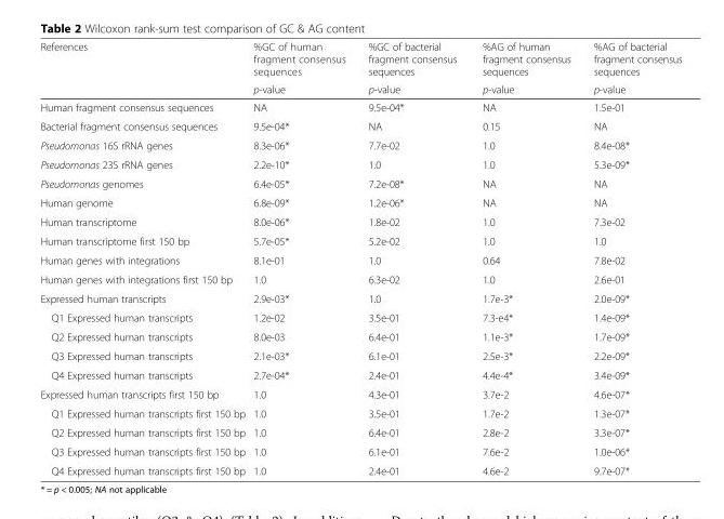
<table><thead><tr><td rowspan="2">References</td><td rowspan="2">%GC of human fragment consensus sequences p-value</td><td rowspan="2">%GC of bacterial fragment consensus sequences p-value</td><td rowspan="2">%AG of human fragment consensus sequences p-value</td><td rowspan="2">%AG of bacterial fragment consensus sequences p-value</td></tr><tr></tr></thead><tbody><tr><td>Human fragment consensus sequences</td><td>NA</td><td>9.5e-04*</td><td>NA</td><td>1.5e-01</td></tr><tr><td>Bacterial fragment consensus sequences</td><td>9.5e-04*</td><td>NA</td><td>0.15</td><td>NA</td></tr><tr><td>Pseudomonas 16S rRNA genes</td><td>8.3e-06*</td><td>7.7e-02</td><td>1.0</td><td>8.4e-08*</td></tr><tr><td>Pseudomonas 23S rRNA genes</td><td>2.2e-10*</td><td>1.0</td><td>1.0</td><td>5.3e-09*</td></tr><tr><td>Pseudomonas genomes</td><td>6.4e-05*</td><td>7.2e-08*</td><td>NA</td><td>NA</td></tr><tr><td>Human genome</td><td>6.8e-09*</td><td>1.2e-06*</td><td>NA</td><td>NA</td></tr><tr><td>Human transcriptome</td><td>8.0e-06*</td><td>1.8e-02</td><td>1.0</td><td>7.3e-02</td></tr><tr><td>Human transcriptome first 150 bp</td><td>5.7e-05*</td><td>5.2e-02</td><td>1.0</td><td>1.0</td></tr><tr><td>Human genes with integrations</td><td>8.1e-01</td><td>1.0</td><td>0.64</td><td>7.8e-02</td></tr><tr><td>Human genes with integrations first 150 bp</td><td>1.0</td><td>6.3e-02</td><td>1.0</td><td>2.6e-01</td></tr><tr><td>Expressed human transcripts</td><td>2.9e-03*</td><td>1.0</td><td>1.7e-3*</td><td>2.0e-09*</td></tr><tr><td>Q1 Expressed human transcripts</td><td>1.2e-02</td><td>3.5e-01</td><td>7.3-e4*</td><td>1.4e-09*</td></tr><tr><td>Q2 Expressed human transcripts</td><td>8.0e-03</td><td>6.4e-01</td><td>1.1e-3*</td><td>1.7e-09*</td></tr><tr><td>Q3 Expressed human transcripts</td><td>2.1e-03*</td><td>6.1e-01</td><td>2.5e-3*</td><td>2.2e-09*</td></tr><tr><td>Q4 Expressed human transcripts</td><td>2.7e-04*</td><td>2.4e-01</td><td>4.4e-4*</td><td>3.4e-09*</td></tr><tr><td>Expressed human transcripts first 150 bp</td><td>1.0</td><td>4.3e-01</td><td>3.7e-2</td><td>4.6e-07*</td></tr><tr><td>Q1 Expressed human transcripts first 150 bp</td><td>1.0</td><td>3.5e-01</td><td>1.7e-2</td><td>1.3e-07*</td></tr><tr><td>Q2 Expressed human transcripts first 150 bp</td><td>1.0</td><td>6.4e-01</td><td>2.8e-2</td><td>3.3e-07*</td></tr><tr><td>Q3 Expressed human transcripts first 150 bp</td><td>1.0</td><td>6.1e-01</td><td>7.6e-2</td><td>1.0e-06*</td></tr><tr><td>Q4 Expressed human transcripts first 150 bp</td><td>1.0</td><td>2.4e-01</td><td>4.6e-2</td><td>9.7e-07*</td></tr></tbody></table>